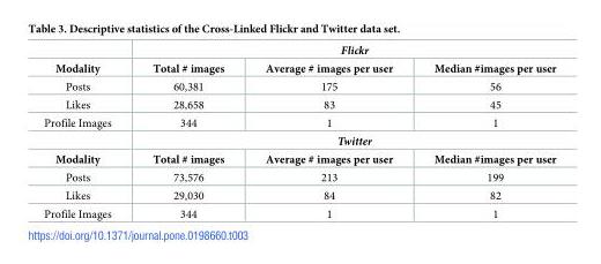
<table><thead><tr><td rowspan="2">Modality</td><td colspan="3">Flickr</td></tr><tr><td>Total # images</td><td>Average # images per user</td><td>Median #images per user</td></tr></thead><tbody><tr><td>Posts</td><td>60,381</td><td>175</td><td>56</td></tr><tr><td>Likes</td><td>28,658</td><td>83</td><td>45</td></tr><tr><td rowspan="2">Profile Images</td><td>344</td><td>1</td><td>1</td></tr><tr><td colspan="3">Twitter</td></tr><tr><td>Modality</td><td>Total # images</td><td>Average # images per user</td><td>Median #images per user</td></tr><tr><td>Posts</td><td>73,576</td><td>213</td><td>199</td></tr><tr><td>Likes</td><td>29,030</td><td>84</td><td>82</td></tr><tr><td>Profile Images</td><td>344</td><td>1</td><td>1</td></tr></tbody></table>